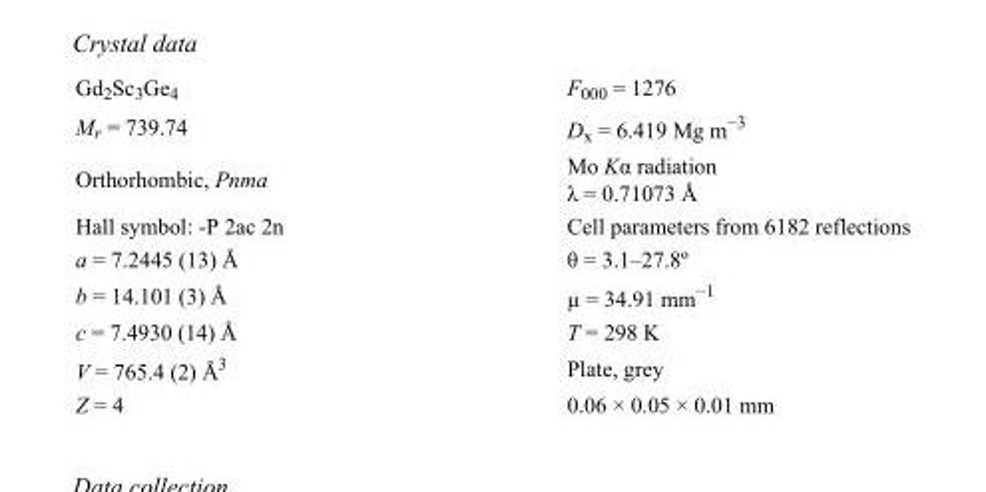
<table><tbody><tr><td>Gd<sub>2</sub>Sc<sub>3</sub>Ge<sub>4</sub></td><td>F000 = 1276</td></tr><tr><td>M<sub>r</sub> = 739.74</td><td>D<sub>x</sub> = 6.419 Mg m<sup>−3</sup></td></tr><tr><td>Orthorhombic, Pnma</td><td>Mo Kα radiation λ = 0.71073 Å</td></tr><tr><td>Hall symbol: -P 2ac 2n</td><td>Cell parameters from 6182 reflections</td></tr><tr><td>a = 7.2445 (13) Å</td><td>θ = 3.1–27.8º</td></tr><tr><td>b = 14.101 (3) Å</td><td>µ = 34.91 mm<sup>−1</sup></td></tr><tr><td>c = 7.4930 (14) Å</td><td>T = 298 K</td></tr><tr><td>V = 765.4 (2) Å<sup>3</sup></td><td>Plate, grey</td></tr><tr><td>Z = 4</td><td>0.06 × 0.05 × 0.01 mm</td></tr></tbody></table>